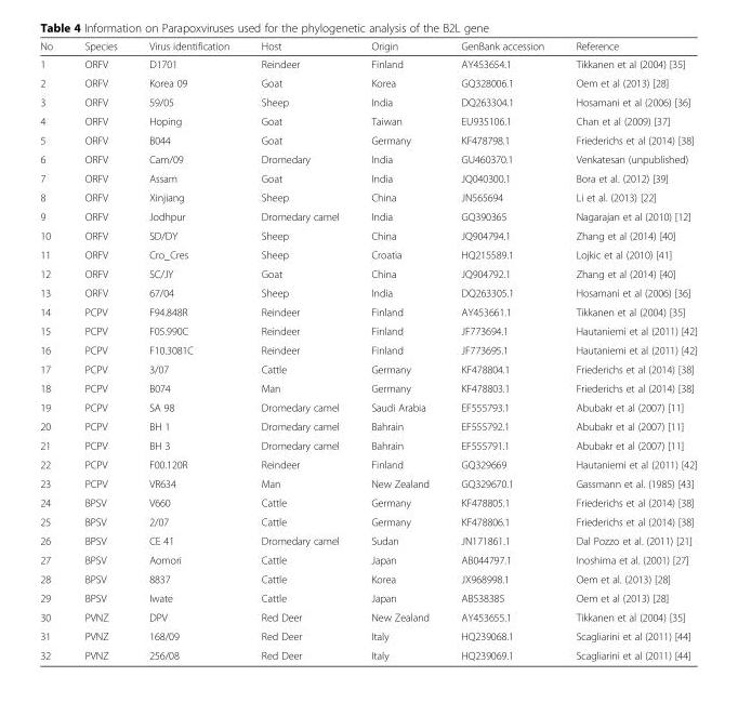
<table><thead><tr><td>No</td><td>Species</td><td>Virus identification</td><td>Host</td><td>Origin</td><td>GenBank accession</td><td>Reference</td></tr></thead><tbody><tr><td>1</td><td>ORFV</td><td>D1701</td><td>Reindeer</td><td>Finland</td><td>AY453654.1</td><td>Tikkanen et al (2004) [35]</td></tr><tr><td>2</td><td>ORFV</td><td>Korea 09</td><td>Goat</td><td>Korea</td><td>GQ328006.1</td><td>Oem et al (2013) [28]</td></tr><tr><td>3</td><td>ORFV</td><td>59/05</td><td>Sheep</td><td>India</td><td>DQ263304.1</td><td>Hosamani et al (2006) [36]</td></tr><tr><td>4</td><td>ORFV</td><td>Hoping</td><td>Goat</td><td>Taiwan</td><td>EU935106.1</td><td>Chan et al (2009) [37]</td></tr><tr><td>5</td><td>ORFV</td><td>B044</td><td>Goat</td><td>Germany</td><td>KF478798.1</td><td>Friederichs et al (2014) [38]</td></tr><tr><td>6</td><td>ORFV</td><td>Cam/09</td><td>Dromedary</td><td>India</td><td>GU460370.1</td><td>Venkatesan (unpublished)</td></tr><tr><td>7</td><td>ORFV</td><td>Assam</td><td>Goat</td><td>India</td><td>JQ040300.1</td><td>Bora et al. (2012) [39]</td></tr><tr><td>8</td><td>ORFV</td><td>Xinjiang</td><td>Sheep</td><td>China</td><td>JN565694</td><td>Li et al. (2013) [22]</td></tr><tr><td>9</td><td>ORFV</td><td>Jodhpur</td><td>Dromedary camel</td><td>India</td><td>GQ390365</td><td>Nagarajan et al (2010) [12]</td></tr><tr><td>10</td><td>ORFV</td><td>SD/DY</td><td>Sheep</td><td>China</td><td>JQ904794.1</td><td>Zhang et al (2014) [40]</td></tr><tr><td>11</td><td>ORFV</td><td>Cro_Cres</td><td>Sheep</td><td>Croatia</td><td>HQ215589.1</td><td>Lojkic et al (2010) [41]</td></tr><tr><td>12</td><td>ORFV</td><td>SC/JY</td><td>Goat</td><td>China</td><td>JQ904792.1</td><td>Zhang et al (2014) [40]</td></tr><tr><td>13</td><td>ORFV</td><td>67/04</td><td>Sheep</td><td>India</td><td>DQ263305.1</td><td>Hosamani et al (2006) [36]</td></tr><tr><td>14</td><td>PCPV</td><td>F94.848R</td><td>Reindeer</td><td>Finland</td><td>AY453661.1</td><td>Tikkanen et al (2004) [35]</td></tr><tr><td>15</td><td>PCPV</td><td>F05.990C</td><td>Reindeer</td><td>Finland</td><td>JF773694.1</td><td>Hautaniemi et al (2011) [42]</td></tr><tr><td>16</td><td>PCPV</td><td>F10.3081C</td><td>Reindeer</td><td>Finland</td><td>JF773695.1</td><td>Hautaniemi et al (2011) [42]</td></tr><tr><td>17</td><td>PCPV</td><td>3/07</td><td>Cattle</td><td>Germany</td><td>KF478804.1</td><td>Friederichs et al (2014) [38]</td></tr><tr><td>18</td><td>PCPV</td><td>B074</td><td>Man</td><td>Germany</td><td>KF478803.1</td><td>Friederichs et al (2014) [38]</td></tr><tr><td>19</td><td>PCPV</td><td>SA 98</td><td>Dromedary camel</td><td>Saudi Arabia</td><td>EF555793.1</td><td>Abubakr et al (2007) [11]</td></tr><tr><td>20</td><td>PCPV</td><td>BH 1</td><td>Dromedary camel</td><td>Bahrain</td><td>EF555792.1</td><td>Abubakr et al (2007) [11]</td></tr><tr><td>21</td><td>PCPV</td><td>BH 3</td><td>Dromedary camel</td><td>Bahrain</td><td>EF555791.1</td><td>Abubakr et al (2007) [11]</td></tr><tr><td>22</td><td>PCPV</td><td>F00.120R</td><td>Reindeer</td><td>Finland</td><td>GQ329669</td><td>Hautaniemi et al (2011) [42]</td></tr><tr><td>23</td><td>PCPV</td><td>VR634</td><td>Man</td><td>New Zealand</td><td>GQ329670.1</td><td>Gassmann et al. (1985) [43]</td></tr><tr><td>24</td><td>BPSV</td><td>V660</td><td>Cattle</td><td>Germany</td><td>KF478805.1</td><td>Friederichs et al (2014) [38]</td></tr><tr><td>25</td><td>BPSV</td><td>2/07</td><td>Cattle</td><td>Germany</td><td>KF478806.1</td><td>Friederichs et al (2014) [38]</td></tr><tr><td>26</td><td>BPSV</td><td>CE 41</td><td>Dromedary camel</td><td>Sudan</td><td>JN171861.1</td><td>Dal Pozzo et al. (2011) [21]</td></tr><tr><td>27</td><td>BPSV</td><td>Aomori</td><td>Cattle</td><td>Japan</td><td>AB044797.1</td><td>Inoshima et al. (2001) [27]</td></tr><tr><td>28</td><td>BPSV</td><td>8837</td><td>Cattle</td><td>Korea</td><td>JX968998.1</td><td>Oem et al. (2013) [28]</td></tr><tr><td>29</td><td>BPSV</td><td>Iwate</td><td>Cattle</td><td>Japan</td><td>AB538385</td><td>Oem et al (2013) [28]</td></tr><tr><td>30</td><td>PVNZ</td><td>DPV</td><td>Red Deer</td><td>New Zealand</td><td>AY453655.1</td><td>Tikkanen et al (2004) [35]</td></tr><tr><td>31</td><td>PVNZ</td><td>168/09</td><td>Red Deer</td><td>Italy</td><td>HQ239068.1</td><td>Scagliarini et al (2011) [44]</td></tr><tr><td>32</td><td>PVNZ</td><td>256/08</td><td>Red Deer</td><td>Italy</td><td>HQ239069.1</td><td>Scagliarini et al (2011) [44]</td></tr></tbody></table>